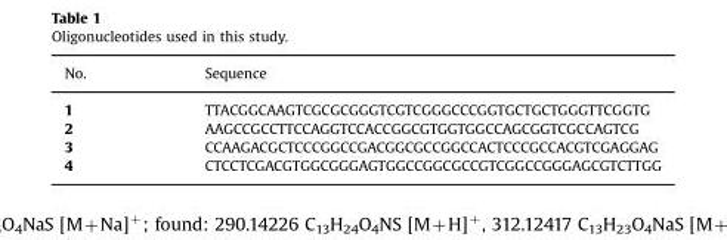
<table><thead><tr><td>No.</td><td>Sequence</td></tr></thead><tbody><tr><td>1</td><td>TTACGGCAAGTCGCGCGGGTCGTCGGGCCCGGTGCTGCTGGGTTCGGTG</td></tr><tr><td>2</td><td>AAGCCGCCTTCCAGGTCCACCGGCGTGGTGGCCAGCGGTCGCCAGTCG</td></tr><tr><td>3</td><td>CCAAGACGCTCCCGGCCGACGGCGCCGGCCACTCCCGCCACGTCGAGGAG</td></tr><tr><td>4</td><td>CTCCTCGACGTGGCGGGAGTGGCCGGCGCCGTCGGCCGGGAGCGTCTTGG</td></tr></tbody></table>